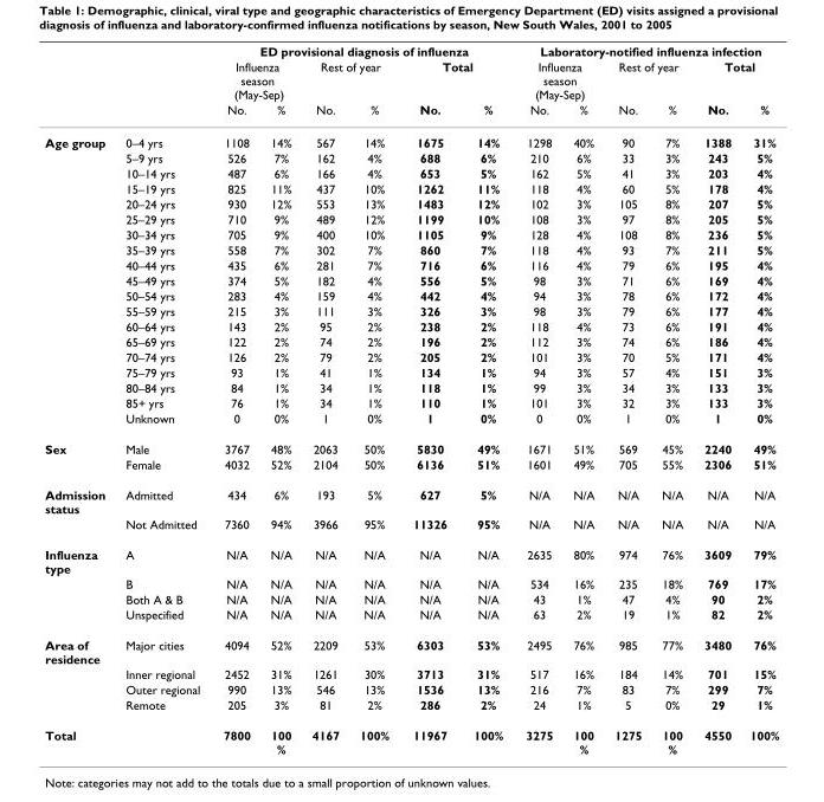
<table><thead><tr><td rowspan="3"></td><td rowspan="3"></td><td colspan="6">ED provisional diagnosis of influenza</td><td colspan="6">Laboratory-notified influenza infection</td></tr><tr><td colspan="2">Influenza season (May-Sep)</td><td colspan="2">Rest of year</td><td colspan="2">Total</td><td colspan="2">Influenza season (May-Sep)</td><td colspan="2">Rest of year</td><td colspan="2">Total</td></tr><tr><td>No.</td><td>%</td><td>No.</td><td>%</td><td>No.</td><td>%</td><td>No.</td><td>%</td><td>No.</td><td>%</td><td>No.</td><td>%</td></tr></thead><tbody><tr><td rowspan="19">Age group</td><td>0–4 yrs</td><td>1108</td><td>14%</td><td>567</td><td>14%</td><td>1675</td><td>14%</td><td>1298</td><td>40%</td><td>90</td><td>7%</td><td>1388</td><td>31%</td></tr><tr><td>5–9 yrs</td><td>526</td><td>7%</td><td>162</td><td>4%</td><td>688</td><td>6%</td><td>210</td><td>6%</td><td>33</td><td>3%</td><td>243</td><td>5%</td></tr><tr><td>10–14 yrs</td><td>487</td><td>6%</td><td>166</td><td>4%</td><td>653</td><td>5%</td><td>162</td><td>5%</td><td>41</td><td>3%</td><td>203</td><td>4%</td></tr><tr><td>15–19 yrs</td><td>825</td><td>11%</td><td>437</td><td>10%</td><td>1262</td><td>11%</td><td>118</td><td>4%</td><td>60</td><td>5%</td><td>178</td><td>4%</td></tr><tr><td>20–24 yrs</td><td>930</td><td>12%</td><td>553</td><td>13%</td><td>1483</td><td>12%</td><td>102</td><td>3%</td><td>105</td><td>8%</td><td>207</td><td>5%</td></tr><tr><td>25–29 yrs</td><td>710</td><td>9%</td><td>489</td><td>12%</td><td>1199</td><td>10%</td><td>108</td><td>3%</td><td>97</td><td>8%</td><td>205</td><td>5%</td></tr><tr><td>30–34 yrs</td><td>705</td><td>9%</td><td>400</td><td>10%</td><td>1105</td><td>9%</td><td>128</td><td>4%</td><td>108</td><td>8%</td><td>236</td><td>5%</td></tr><tr><td>35–39 yrs</td><td>558</td><td>7%</td><td>302</td><td>7%</td><td>860</td><td>7%</td><td>118</td><td>4%</td><td>93</td><td>7%</td><td>211</td><td>5%</td></tr><tr><td>40–44 yrs</td><td>435</td><td>6%</td><td>281</td><td>7%</td><td>716</td><td>6%</td><td>116</td><td>4%</td><td>79</td><td>6%</td><td>195</td><td>4%</td></tr><tr><td>45–49 yrs</td><td>374</td><td>5%</td><td>182</td><td>4%</td><td>556</td><td>5%</td><td>98</td><td>3%</td><td>71</td><td>6%</td><td>169</td><td>4%</td></tr><tr><td>50–54 yrs</td><td>283</td><td>4%</td><td>159</td><td>4%</td><td>442</td><td>4%</td><td>94</td><td>3%</td><td>78</td><td>6%</td><td>172</td><td>4%</td></tr><tr><td>55–59 yrs</td><td>215</td><td>3%</td><td>111</td><td>3%</td><td>326</td><td>3%</td><td>98</td><td>3%</td><td>79</td><td>6%</td><td>177</td><td>4%</td></tr><tr><td>60–64 yrs</td><td>143</td><td>2%</td><td>95</td><td>2%</td><td>238</td><td>2%</td><td>118</td><td>4%</td><td>73</td><td>6%</td><td>191</td><td>4%</td></tr><tr><td>65–69 yrs</td><td>122</td><td>2%</td><td>74</td><td>2%</td><td>196</td><td>2%</td><td>112</td><td>3%</td><td>74</td><td>6%</td><td>186</td><td>4%</td></tr><tr><td>70–74 yrs</td><td>126</td><td>2%</td><td>79</td><td>2%</td><td>205</td><td>2%</td><td>101</td><td>3%</td><td>70</td><td>5%</td><td>171</td><td>4%</td></tr><tr><td>75–79 yrs</td><td>93</td><td>1%</td><td>41</td><td>1%</td><td>134</td><td>1%</td><td>94</td><td>3%</td><td>57</td><td>4%</td><td>151</td><td>3%</td></tr><tr><td>80–84 yrs</td><td>84</td><td>1%</td><td>34</td><td>1%</td><td>118</td><td>1%</td><td>99</td><td>3%</td><td>34</td><td>3%</td><td>133</td><td>3%</td></tr><tr><td>85+ yrs</td><td>76</td><td>1%</td><td>34</td><td>1%</td><td>110</td><td>1%</td><td>101</td><td>3%</td><td>32</td><td>3%</td><td>133</td><td>3%</td></tr><tr><td>Unknown</td><td>0</td><td>0%</td><td>1</td><td>0%</td><td>1</td><td>0%</td><td>0</td><td>0%</td><td>1</td><td>0%</td><td>1</td><td>0%</td></tr><tr><td rowspan="2">Sex</td><td>Male</td><td>3767</td><td>48%</td><td>2063</td><td>50%</td><td>5830</td><td>49%</td><td>1671</td><td>51%</td><td>569</td><td>45%</td><td>2240</td><td>49%</td></tr><tr><td>Female</td><td>4032</td><td>52%</td><td>2104</td><td>50%</td><td>6136</td><td>51%</td><td>1601</td><td>49%</td><td>705</td><td>55%</td><td>2306</td><td>51%</td></tr><tr><td rowspan="2">Admission status</td><td>Admitted</td><td>434</td><td>6%</td><td>193</td><td>5%</td><td>627</td><td>5%</td><td>N/A</td><td>N/A</td><td>N/A</td><td>N/A</td><td>N/A</td><td>N/A</td></tr><tr><td>Not Admitted</td><td>7360</td><td>94%</td><td>3966</td><td>95%</td><td>11326</td><td>95%</td><td>N/A</td><td>N/A</td><td>N/A</td><td>N/A</td><td>N/A</td><td>N/A</td></tr><tr><td rowspan="4">Influenza type</td><td>A</td><td>N/A</td><td>N/A</td><td>N/A</td><td>N/A</td><td>N/A</td><td>N/A</td><td>2635</td><td>80%</td><td>974</td><td>76%</td><td>3609</td><td>79%</td></tr><tr><td>B</td><td>N/A</td><td>N/A</td><td>N/A</td><td>N/A</td><td>N/A</td><td>N/A</td><td>534</td><td>16%</td><td>235</td><td>18%</td><td>769</td><td>17%</td></tr><tr><td>Both A &amp; B</td><td>N/A</td><td>N/A</td><td>N/A</td><td>N/A</td><td>N/A</td><td>N/A</td><td>43</td><td>1%</td><td>47</td><td>4%</td><td>90</td><td>2%</td></tr><tr><td>Unspecified</td><td>N/A</td><td>N/A</td><td>N/A</td><td>N/A</td><td>N/A</td><td>N/A</td><td>63</td><td>2%</td><td>19</td><td>1%</td><td>82</td><td>2%</td></tr><tr><td rowspan="4">Area of residence</td><td>Major cities</td><td>4094</td><td>52%</td><td>2209</td><td>53%</td><td>6303</td><td>53%</td><td>2495</td><td>76%</td><td>985</td><td>77%</td><td>3480</td><td>76%</td></tr><tr><td>Inner regional</td><td>2452</td><td>31%</td><td>1261</td><td>30%</td><td>3713</td><td>31%</td><td>517</td><td>16%</td><td>184</td><td>14%</td><td>701</td><td>15%</td></tr><tr><td>Outer regional</td><td>990</td><td>13%</td><td>546</td><td>13%</td><td>1536</td><td>13%</td><td>216</td><td>7%</td><td>83</td><td>7%</td><td>299</td><td>7%</td></tr><tr><td>Remote</td><td>205</td><td>3%</td><td>81</td><td>2%</td><td>286</td><td>2%</td><td>24</td><td>1%</td><td>5</td><td>0%</td><td>29</td><td>1%</td></tr><tr><td>Total</td><td></td><td>7800</td><td>100 %</td><td>4167</td><td>100%</td><td>11967</td><td>100%</td><td>3275</td><td>100 %</td><td>1275</td><td>100 %</td><td>4550</td><td>100%</td></tr></tbody></table>